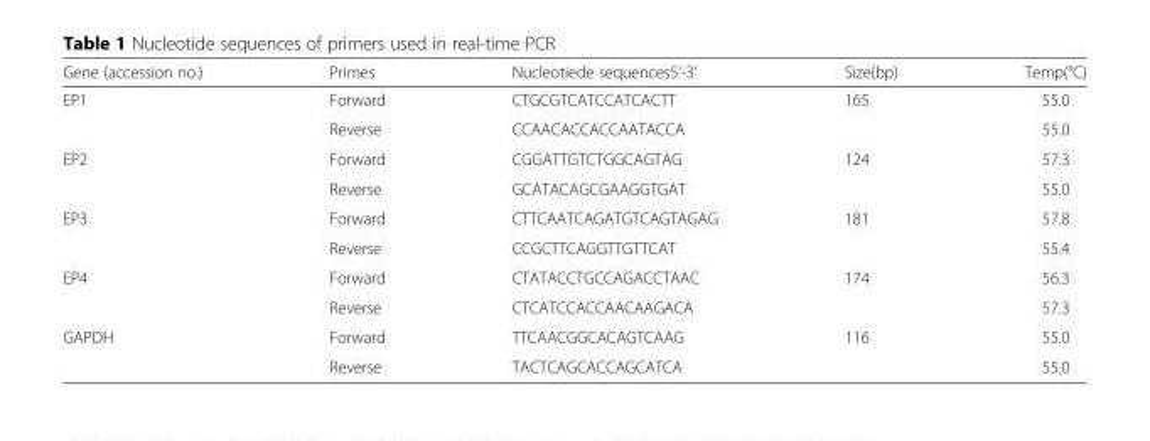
<table><thead><tr><td>Gene (accession no.)</td><td>Primes</td><td>Nucleotiede sequences5‘-3’</td><td>Size(bp)</td><td>Temp(°C)</td></tr></thead><tbody><tr><td rowspan="2">EP1</td><td>Forward</td><td>CTGCGTCATCCATCACTT</td><td rowspan="2">165</td><td>55.0</td></tr><tr><td>Reverse</td><td>CCAACACCACCAATACCA</td><td>55.0</td></tr><tr><td rowspan="2">EP2</td><td>Forward</td><td>CGGATTGTCTGGCAGTAG</td><td rowspan="2">124</td><td>57.3</td></tr><tr><td>Reverse</td><td>GCATACAGCGAAGGTGAT</td><td>55.0</td></tr><tr><td rowspan="2">EP3</td><td>Forward</td><td>CTTCAATCAGATGTCAGTAGAG</td><td rowspan="2">181</td><td>57.8</td></tr><tr><td>Reverse</td><td>CCGCTTCAGGTTGTTCAT</td><td>55.4</td></tr><tr><td rowspan="2">EP4</td><td>Forward</td><td>CTATACCTGCCAGACCTAAC</td><td rowspan="2">174</td><td>56.3</td></tr><tr><td>Reverse</td><td>CTCATCCACCAACAAGACA</td><td>57.3</td></tr><tr><td rowspan="2">GAPDH</td><td>Forward</td><td>TTCAACGGCACAGTCAAG</td><td rowspan="2">116</td><td>55.0</td></tr><tr><td>Reverse</td><td>TACTCAGCACCAGCATCA</td><td>55.0</td></tr></tbody></table>